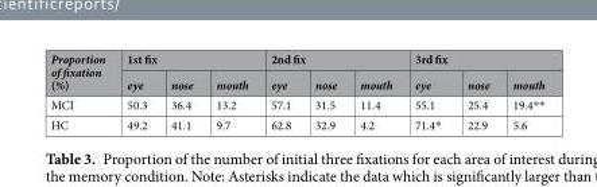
<table><thead><tr><td rowspan="2">Proportion of fixation (%)</td><td colspan="3">1st fix</td><td colspan="3">2nd fix</td><td colspan="3">3rd fix</td></tr><tr><td>eye</td><td>nose</td><td>mouth</td><td>eye</td><td>nose</td><td>mouth</td><td>eye</td><td>nose</td><td>mouth</td></tr></thead><tbody><tr><td>MCI</td><td>50.3</td><td>36.4</td><td>13.2</td><td>57.1</td><td>31.5</td><td>11.4</td><td>55.1</td><td>25.4</td><td>19.4**</td></tr><tr><td>HC</td><td>49.2</td><td>41.1</td><td>9.7</td><td>62.8</td><td>32.9</td><td>4.2</td><td>71.4*</td><td>22.9</td><td>5.6</td></tr></tbody></table>